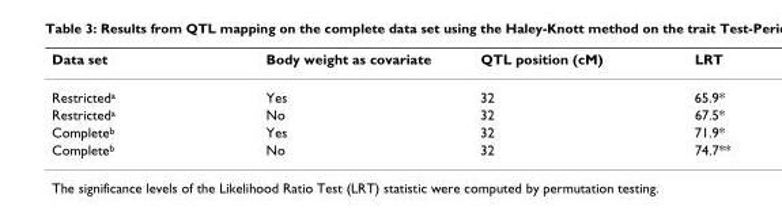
<table><thead><tr><td>Data set</td><td>Body weight as covariate</td><td>QTL position (cM)</td><td>LRT</td></tr></thead><tbody><tr><td>Restricted<sup>a</sup></td><td>Yes</td><td>32</td><td>65.9*</td></tr><tr><td>Restricted<sup>a</sup></td><td>No</td><td>32</td><td>67.5*</td></tr><tr><td>Complete<sup>b</sup></td><td>Yes</td><td>32</td><td>71.9*</td></tr><tr><td>Complete<sup>b</sup></td><td>No</td><td>32</td><td>74.7**</td></tr></tbody></table>